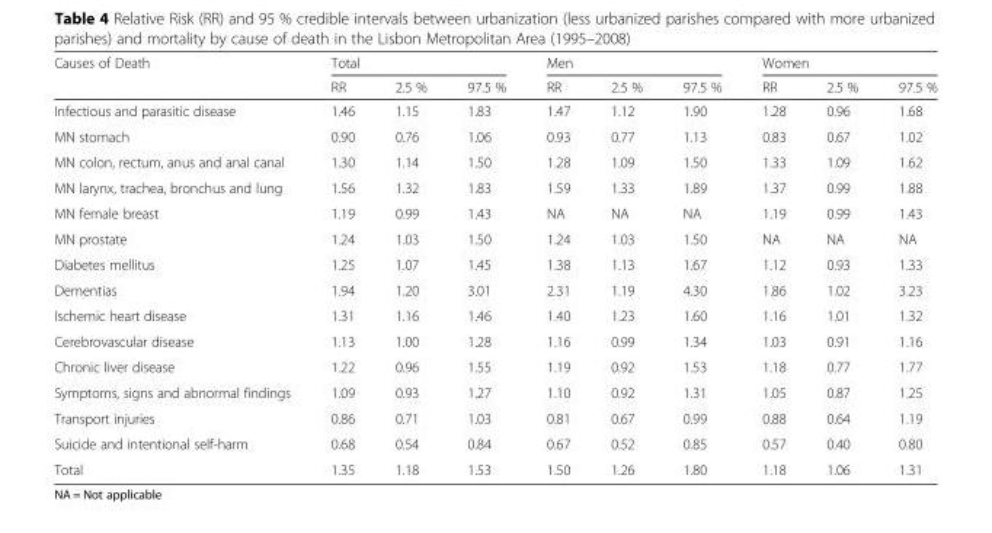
<table><thead><tr><td rowspan="2">Causes of Death</td><td colspan="3">Total</td><td colspan="3">Men</td><td colspan="3">Women</td></tr><tr><td>RR</td><td>2.5 %</td><td>97.5 %</td><td>RR</td><td>2.5 %</td><td>97.5 %</td><td>RR</td><td>2.5 %</td><td>97.5 %</td></tr></thead><tbody><tr><td>Infectious and parasitic disease</td><td>1.46</td><td>1.15</td><td>1.83</td><td>1.47</td><td>1.12</td><td>1.90</td><td>1.28</td><td>0.96</td><td>1.68</td></tr><tr><td>MN stomach</td><td>0.90</td><td>0.76</td><td>1.06</td><td>0.93</td><td>0.77</td><td>1.13</td><td>0.83</td><td>0.67</td><td>1.02</td></tr><tr><td>MN colon, rectum, anus and anal canal</td><td>1.30</td><td>1.14</td><td>1.50</td><td>1.28</td><td>1.09</td><td>1.50</td><td>1.33</td><td>1.09</td><td>1.62</td></tr><tr><td>MN larynx, trachea, bronchus and lung</td><td>1.56</td><td>1.32</td><td>1.83</td><td>1.59</td><td>1.33</td><td>1.89</td><td>1.37</td><td>0.99</td><td>1.88</td></tr><tr><td>MN female breast</td><td>1.19</td><td>0.99</td><td>1.43</td><td>NA</td><td>NA</td><td>NA</td><td>1.19</td><td>0.99</td><td>1.43</td></tr><tr><td>MN prostate</td><td>1.24</td><td>1.03</td><td>1.50</td><td>1.24</td><td>1.03</td><td>1.50</td><td>NA</td><td>NA</td><td>NA</td></tr><tr><td>Diabetes mellitus</td><td>1.25</td><td>1.07</td><td>1.45</td><td>1.38</td><td>1.13</td><td>1.67</td><td>1.12</td><td>0.93</td><td>1.33</td></tr><tr><td>Dementias</td><td>1.94</td><td>1.20</td><td>3.01</td><td>2.31</td><td>1.19</td><td>4.30</td><td>1.86</td><td>1.02</td><td>3.23</td></tr><tr><td>Ischemic heart disease</td><td>1.31</td><td>1.16</td><td>1.46</td><td>1.40</td><td>1.23</td><td>1.60</td><td>1.16</td><td>1.01</td><td>1.32</td></tr><tr><td>Cerebrovascular disease</td><td>1.13</td><td>1.00</td><td>1.28</td><td>1.16</td><td>0.99</td><td>1.34</td><td>1.03</td><td>0.91</td><td>1.16</td></tr><tr><td>Chronic liver disease</td><td>1.22</td><td>0.96</td><td>1.55</td><td>1.19</td><td>0.92</td><td>1.53</td><td>1.18</td><td>0.77</td><td>1.77</td></tr><tr><td>Symptoms, signs and abnormal findings</td><td>1.09</td><td>0.93</td><td>1.27</td><td>1.10</td><td>0.92</td><td>1.31</td><td>1.05</td><td>0.87</td><td>1.25</td></tr><tr><td>Transport injuries</td><td>0.86</td><td>0.71</td><td>1.03</td><td>0.81</td><td>0.67</td><td>0.99</td><td>0.88</td><td>0.64</td><td>1.19</td></tr><tr><td>Suicide and intentional self-harm</td><td>0.68</td><td>0.54</td><td>0.84</td><td>0.67</td><td>0.52</td><td>0.85</td><td>0.57</td><td>0.40</td><td>0.80</td></tr><tr><td>Total</td><td>1.35</td><td>1.18</td><td>1.53</td><td>1.50</td><td>1.26</td><td>1.80</td><td>1.18</td><td>1.06</td><td>1.31</td></tr></tbody></table>